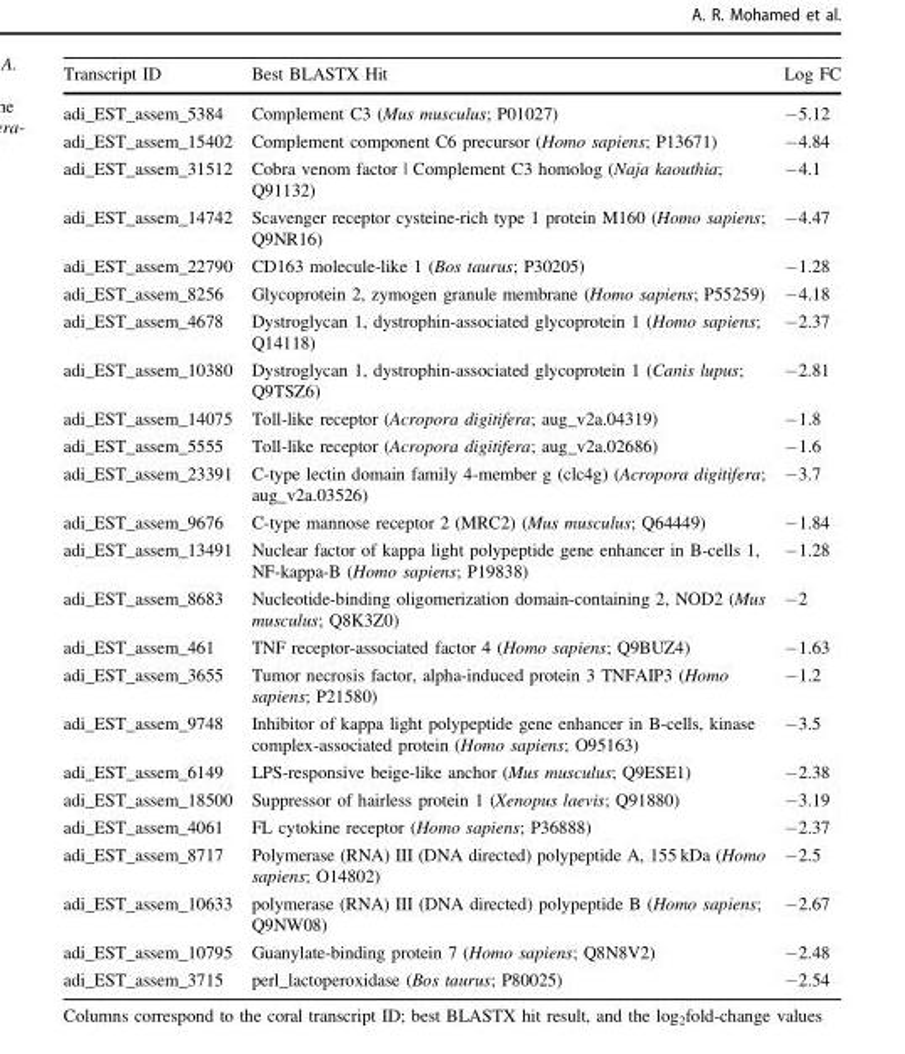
<table><thead><tr><td>Transcript ID</td><td>Best BLASTX Hit</td><td>Log FC</td></tr></thead><tbody><tr><td>adi_EST_assem_5384</td><td>Complement C3 (Mus musculus; P01027)</td><td>−5.12</td></tr><tr><td>adi_EST_assem_15402</td><td>Complement component C6 precursor (Homo sapiens; P13671)</td><td>−4.84</td></tr><tr><td>adi_EST_assem_31512</td><td>Cobra venom factor | Complement C3 homolog (Naja kaouthia; Q91132)</td><td>−4.1</td></tr><tr><td>adi_EST_assem_14742</td><td>Scavenger receptor cysteine-rich type 1 protein M160 (Homo sapiens; Q9NR16)</td><td>−4.47</td></tr><tr><td>adi_EST_assem_22790</td><td>CD163 molecule-like 1 (Bos taurus; P30205)</td><td>−1.28</td></tr><tr><td>adi_EST_assem_8256</td><td>Glycoprotein 2, zymogen granule membrane (Homo sapiens; P55259)</td><td>−4.18</td></tr><tr><td>adi_EST_assem_4678</td><td>Dystroglycan 1, dystrophin-associated glycoprotein 1 (Homo sapiens; Q14118)</td><td>−2.37</td></tr><tr><td>adi_EST_assem_10380</td><td>Dystroglycan 1, dystrophin-associated glycoprotein 1 (Canis lupus; Q9TSZ6)</td><td>−2.81</td></tr><tr><td>adi_EST_assem_14075</td><td>Toll-like receptor (Acropora digitifera; aug_v2a.04319)</td><td>−1.8</td></tr><tr><td>adi_EST_assem_5555</td><td>Toll-like receptor (Acropora digitifera; aug_v2a.02686)</td><td>−1.6</td></tr><tr><td>adi_EST_assem_23391</td><td>C-type lectin domain family 4-member g (clc4g) (Acropora digitifera; aug_v2a.03526)</td><td>−3.7</td></tr><tr><td>adi_EST_assem_9676</td><td>C-type mannose receptor 2 (MRC2) (Mus musculus; Q64449)</td><td>−1.84</td></tr><tr><td>adi_EST_assem_13491</td><td>Nuclear factor of kappa light polypeptide gene enhancer in B-cells 1, NF-kappa-B (Homo sapiens; P19838)</td><td>−1.28</td></tr><tr><td>adi_EST_assem_8683</td><td>Nucleotide-binding oligomerization domain-containing 2, NOD2 (Mus musculus; Q8K3Z0)</td><td>−2</td></tr><tr><td>adi_EST_assem_461</td><td>TNF receptor-associated factor 4 (Homo sapiens; Q9BUZ4)</td><td>−1.63</td></tr><tr><td>adi_EST_assem_3655</td><td>Tumor necrosis factor, alpha-induced protein 3 TNFAIP3 (Homo sapiens; P21580)</td><td>−1.2</td></tr><tr><td>adi_EST_assem_9748</td><td>Inhibitor of kappa light polypeptide gene enhancer in B-cells, kinase complex-associated protein (Homo sapiens; O95163)</td><td>−3.5</td></tr><tr><td>adi_EST_assem_6149</td><td>LPS-responsive beige-like anchor (Mus musculus; Q9ESE1)</td><td>−2.38</td></tr><tr><td>adi_EST_assem_18500</td><td>Suppressor of hairless protein 1 (Xenopus laevis; Q91880)</td><td>−3.19</td></tr><tr><td>adi_EST_assem_4061</td><td>FL cytokine receptor (Homo sapiens; P36888)</td><td>−2.37</td></tr><tr><td>adi_EST_assem_8717</td><td>Polymerase (RNA) III (DNA directed) polypeptide A, 155 kDa (Homo sapiens; O14802)</td><td>−2.5</td></tr><tr><td>adi_EST_assem_10633</td><td>polymerase (RNA) III (DNA directed) polypeptide B (Homo sapiens; Q9NW08)</td><td>−2.67</td></tr><tr><td>adi_EST_assem_10795</td><td>Guanylate-binding protein 7 (Homo sapiens; Q8N8V2)</td><td>−2.48</td></tr><tr><td>adi_EST_assem_3715</td><td>perl_lactoperoxidase (Bos taurus; P80025)</td><td>−2.54</td></tr></tbody></table>